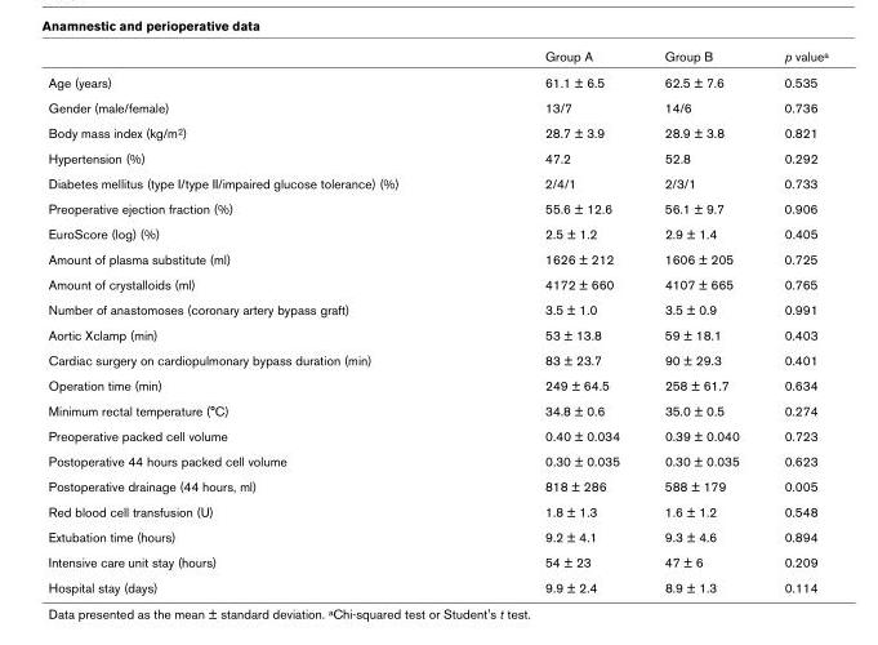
<table><thead><tr><td></td><td>Group A</td><td>Group B</td><td>p value<sup>a</sup></td></tr></thead><tbody><tr><td>Age (years)</td><td>61.1 ± 6.5</td><td>62.5 ± 7.6</td><td>0.535</td></tr><tr><td>Gender (male/female)</td><td>13/7</td><td>14/6</td><td>0.736</td></tr><tr><td>Body mass index (kg/m<sup>2</sup>)</td><td>28.7 ± 3.9</td><td>28.9 ± 3.8</td><td>0.821</td></tr><tr><td>Hypertension (%)</td><td>47.2</td><td>52.8</td><td>0.292</td></tr><tr><td>Diabetes mellitus (type I/type II/impaired glucose tolerance) (%)</td><td>2/4/1</td><td>2/3/1</td><td>0.733</td></tr><tr><td>Preoperative ejection fraction (%)</td><td>55.6 ± 12.6</td><td>56.1 ± 9.7</td><td>0.906</td></tr><tr><td>EuroScore (log) (%)</td><td>2.5 ± 1.2</td><td>2.9 ± 1.4</td><td>0.405</td></tr><tr><td>Amount of plasma substitute (ml)</td><td>1626 ± 212</td><td>1606 ± 205</td><td>0.725</td></tr><tr><td>Amount of crystalloids (ml)</td><td>4172 ± 660</td><td>4107 ± 665</td><td>0.765</td></tr><tr><td>Number of anastomoses (coronary artery bypass graft)</td><td>3.5 ± 1.0</td><td>3.5 ± 0.9</td><td>0.991</td></tr><tr><td>Aortic Xclamp (min)</td><td>53 ± 13.8</td><td>59 ± 18.1</td><td>0.403</td></tr><tr><td>Cardiac surgery on cardiopulmonary bypass duration (min)</td><td>83 ± 23.7</td><td>90 ± 29.3</td><td>0.401</td></tr><tr><td>Operation time (min)</td><td>249 ± 64.5</td><td>258 ± 61.7</td><td>0.634</td></tr><tr><td>Minimum rectal temperature (°C)</td><td>34.8 ± 0.6</td><td>35.0 ± 0.5</td><td>0.274</td></tr><tr><td>Preoperative packed cell volume</td><td>0.40 ± 0.034</td><td>0.39 ± 0.040</td><td>0.723</td></tr><tr><td>Postoperative 44 hours packed cell volume</td><td>0.30 ± 0.035</td><td>0.30 ± 0.035</td><td>0.623</td></tr><tr><td>Postoperative drainage (44 hours, ml)</td><td>818 ± 286</td><td>588 ± 179</td><td>0.005</td></tr><tr><td>Red blood cell transfusion (U)</td><td>1.8 ± 1.3</td><td>1.6 ± 1.2</td><td>0.548</td></tr><tr><td>Extubation time (hours)</td><td>9.2 ± 4.1</td><td>9.3 ± 4.6</td><td>0.894</td></tr><tr><td>Intensive care unit stay (hours)</td><td>54 ± 23</td><td>47 ± 6</td><td>0.209</td></tr><tr><td>Hospital stay (days)</td><td>9.9 ± 2.4</td><td>8.9 ± 1.3</td><td>0.114</td></tr></tbody></table>